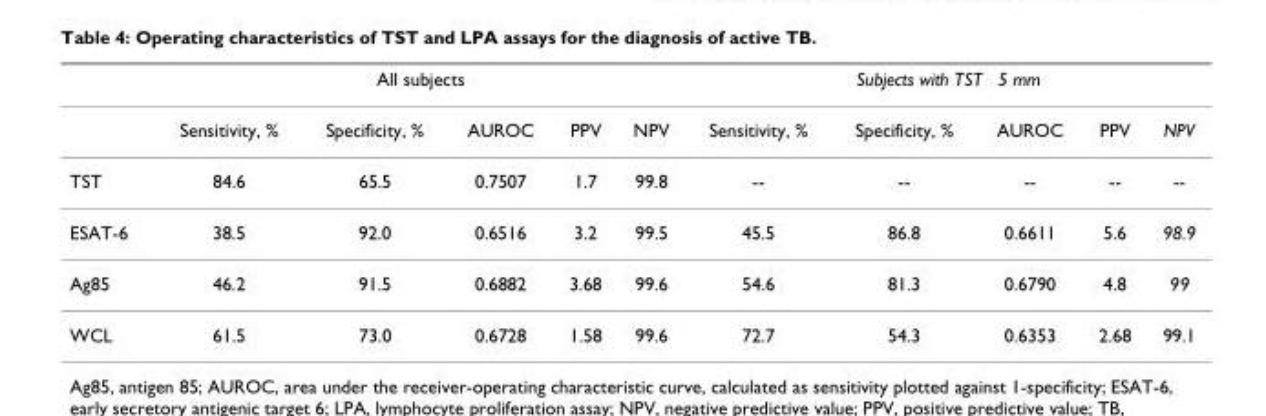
<table><thead><tr><td rowspan="2"></td><td colspan="5">All subjects</td><td colspan="5">Subjects with TST 5 mm</td></tr><tr><td>Sensitivity, %</td><td>Specificity, %</td><td>AUROC</td><td>PPV</td><td>NPV</td><td>Sensitivity, %</td><td>Specificity, %</td><td>AUROC</td><td>PPV</td><td>NPV</td></tr></thead><tbody><tr><td>TST</td><td>84.6</td><td>65.5</td><td>0.7507</td><td>1.7</td><td>99.8</td><td>--</td><td>--</td><td>--</td><td>--</td><td>--</td></tr><tr><td>ESAT-6</td><td>38.5</td><td>92.0</td><td>0.6516</td><td>3.2</td><td>99.5</td><td>45.5</td><td>86.8</td><td>0.6611</td><td>5.6</td><td>98.9</td></tr><tr><td>Ag85</td><td>46.2</td><td>91.5</td><td>0.6882</td><td>3.68</td><td>99.6</td><td>54.6</td><td>81.3</td><td>0.6790</td><td>4.8</td><td>99</td></tr><tr><td>WCL</td><td>61.5</td><td>73.0</td><td>0.6728</td><td>1.58</td><td>99.6</td><td>72.7</td><td>54.3</td><td>0.6353</td><td>2.68</td><td>99.1</td></tr></tbody></table>